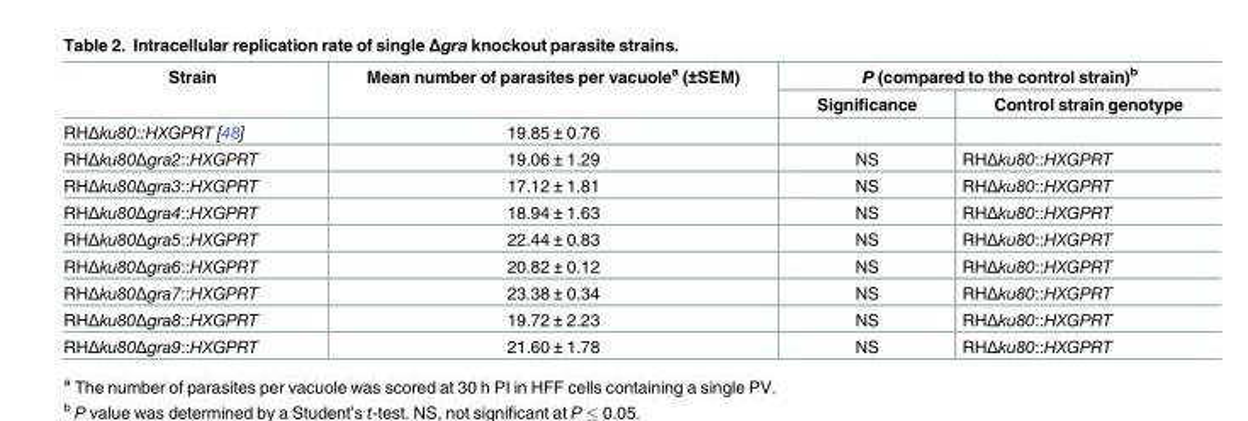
<table><thead><tr><td rowspan="2">Strain</td><td rowspan="2">Mean number of parasites per vacuole<sup>a</sup> (±SEM)</td><td colspan="2">P (compared to the control strain)<sup>b</sup></td></tr><tr><td>Significance</td><td>Control strain genotype</td></tr></thead><tbody><tr><td>RHΔku80::HXGPRT [48]</td><td>19.85 ± 0.76</td><td></td><td></td></tr><tr><td>RHΔku80Δgra2::HXGPRT</td><td>19.06 ± 1.29</td><td>NS</td><td>RHΔku80::HXGPRT</td></tr><tr><td>RHΔku80Δgra3::HXGPRT</td><td>17.12 ± 1.81</td><td>NS</td><td>RHΔku80::HXGPRT</td></tr><tr><td>RHΔku80Δgra4::HXGPRT</td><td>18.94 ± 1.63</td><td>NS</td><td>RHΔku80::HXGPRT</td></tr><tr><td>RHΔku80Δgra5::HXGPRT</td><td>22.44 ± 0.83</td><td>NS</td><td>RHΔku80::HXGPRT</td></tr><tr><td>RHΔku80Δgra6::HXGPRT</td><td>20.82 ± 0.12</td><td>NS</td><td>RHΔku80::HXGPRT</td></tr><tr><td>RHΔku80Δgra7::HXGPRT</td><td>23.38 ± 0.34</td><td>NS</td><td>RHΔku80::HXGPRT</td></tr><tr><td>RHΔku80Δgra8::HXGPRT</td><td>19.72 ± 2.23</td><td>NS</td><td>RHΔku80::HXGPRT</td></tr><tr><td>RHΔku80Δgra9::HXGPRT</td><td>21.60 ± 1.78</td><td>NS</td><td>RHΔku80::HXGPRT</td></tr></tbody></table>